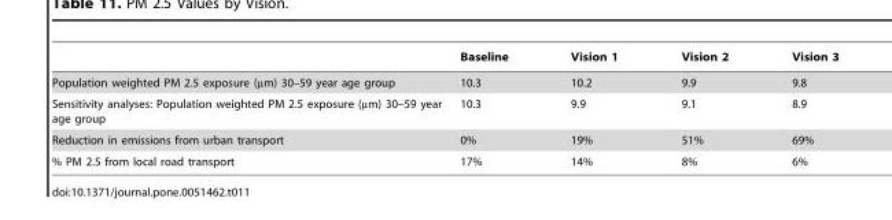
<table><thead><tr><td></td><td>Baseline</td><td>Vision 1</td><td>Vision 2</td><td>Vision 3</td></tr></thead><tbody><tr><td>Population weighted PM 2.5 exposure (µm) 30–59 year age group</td><td>10.3</td><td>10.2</td><td>9.9</td><td>9.8</td></tr><tr><td>Sensitivity analyses: Population weighted PM 2.5 exposure (µm) 30–59 year age group</td><td>10.3</td><td>9.9</td><td>9.1</td><td>8.9</td></tr><tr><td>Reduction in emissions from urban transport</td><td>0%</td><td>19%</td><td>51%</td><td>69%</td></tr><tr><td>% PM 2.5 from local road transport</td><td>17%</td><td>14%</td><td>8%</td><td>6%</td></tr></tbody></table>